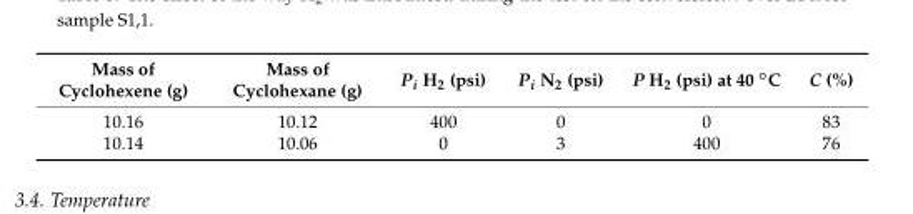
<table><thead><tr><td>Mass of Cyclohexene (g)</td><td>Mass of Cyclohexane (g)</td><td>P<sub>i</sub> H<sub>2</sub> (psi)</td><td>P<sub>i</sub> N<sub>2</sub> (psi)</td><td>P H2 (psi) at 40 ◦C</td><td>C (%)</td></tr></thead><tbody><tr><td>10.16</td><td>10.12</td><td>400</td><td>0</td><td>0</td><td>83</td></tr><tr><td>10.14</td><td>10.06</td><td>0</td><td>3</td><td>400</td><td>76</td></tr></tbody></table>